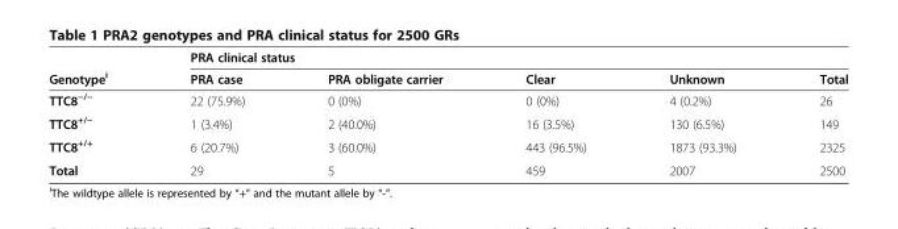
<table><thead><tr><td rowspan="2">Genotype<sup>i</sup></td><td colspan="5">PRA clinical status</td></tr><tr><td>PRA case</td><td>PRA obligate carrier</td><td>Clear</td><td>Unknown</td><td>Total</td></tr></thead><tbody><tr><td>TTC8<sup>−/−</sup></td><td>22 (75.9%)</td><td>0 (0%)</td><td>0 (0%)</td><td>4 (0.2%)</td><td>26</td></tr><tr><td>TTC8<sup>+/−</sup></td><td>1 (3.4%)</td><td>2 (40.0%)</td><td>16 (3.5%)</td><td>130 (6.5%)</td><td>149</td></tr><tr><td>TTC8<sup>+/+</sup></td><td>6 (20.7%)</td><td>3 (60.0%)</td><td>443 (96.5%)</td><td>1873 (93.3%)</td><td>2325</td></tr><tr><td>Total</td><td>29</td><td>5</td><td>459</td><td>2007</td><td>2500</td></tr></tbody></table>